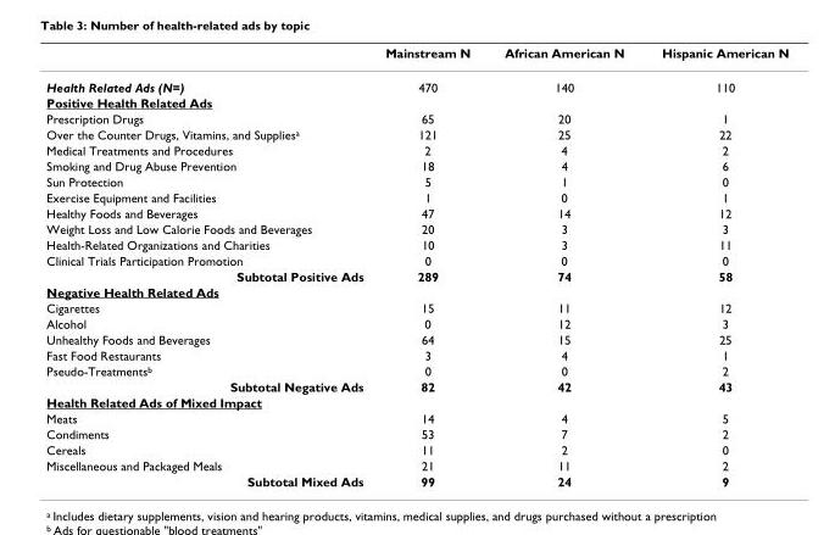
<table><thead><tr><td></td><td>Mainstream N</td><td>African American N</td><td>Hispanic American N</td></tr></thead><tbody><tr><td>Health Related Ads (N=)</td><td>470</td><td>140</td><td>110</td></tr><tr><td colspan="4">Positive Health Related Ads</td></tr><tr><td>Prescription Drugs</td><td>65</td><td>20</td><td>1</td></tr><tr><td>Over the Counter Drugs, Vitamins, and Supplies<sup>a</sup></td><td>121</td><td>25</td><td>22</td></tr><tr><td>Medical Treatments and Procedures</td><td>2</td><td>4</td><td>2</td></tr><tr><td>Smoking and Drug Abuse Prevention</td><td>18</td><td>4</td><td>6</td></tr><tr><td>Sun Protection</td><td>5</td><td>1</td><td>0</td></tr><tr><td>Exercise Equipment and Facilities</td><td>1</td><td>0</td><td>1</td></tr><tr><td>Healthy Foods and Beverages</td><td>47</td><td>14</td><td>12</td></tr><tr><td>Weight Loss and Low Calorie Foods and Beverages</td><td>20</td><td>3</td><td>3</td></tr><tr><td>Health-Related Organizations and Charities</td><td>10</td><td>3</td><td>11</td></tr><tr><td>Clinical Trials Participation Promotion</td><td>0</td><td>0</td><td>0</td></tr><tr><td>Subtotal Positive Ads</td><td>289</td><td>74</td><td>58</td></tr><tr><td colspan="4">Negative Health Related Ads</td></tr><tr><td>Cigarettes</td><td>15</td><td>11</td><td>12</td></tr><tr><td>Alcohol</td><td>0</td><td>12</td><td>3</td></tr><tr><td>Unhealthy Foods and Beverages</td><td>64</td><td>15</td><td>25</td></tr><tr><td>Fast Food Restaurants</td><td>3</td><td>4</td><td>1</td></tr><tr><td>Pseudo-Treatments<sup>b</sup></td><td>0</td><td>0</td><td>2</td></tr><tr><td>Subtotal Negative Ads</td><td>82</td><td>42</td><td>43</td></tr><tr><td colspan="4">Health Related Ads of Mixed Impact</td></tr><tr><td>Meats</td><td>14</td><td>4</td><td>5</td></tr><tr><td>Condiments</td><td>53</td><td>7</td><td>2</td></tr><tr><td>Cereals</td><td>11</td><td>2</td><td>0</td></tr><tr><td>Miscellaneous and Packaged Meals</td><td>21</td><td>11</td><td>2</td></tr><tr><td>Subtotal Mixed Ads</td><td>99</td><td>24</td><td>9</td></tr></tbody></table>